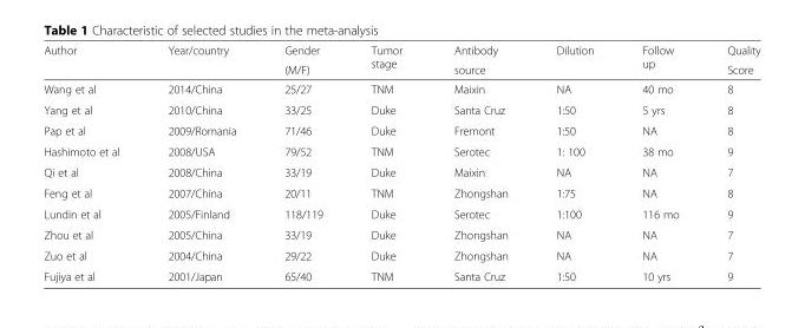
<table><thead><tr><td rowspan="2">Author</td><td rowspan="2">Year/country</td><td rowspan="2">Gender (M/F)</td><td rowspan="2">Tumor stage</td><td rowspan="2">Antibody source</td><td rowspan="2">Dilution</td><td rowspan="2">Follow up</td><td rowspan="2">Quality Score</td></tr><tr></tr></thead><tbody><tr><td>Wang et al</td><td>2014/China</td><td>25/27</td><td>TNM</td><td>Maixin</td><td>NA</td><td>40 mo</td><td>8</td></tr><tr><td>Yang et al</td><td>2010/China</td><td>33/25</td><td>Duke</td><td>Santa Cruz</td><td>1:50</td><td>5 yrs</td><td>8</td></tr><tr><td>Pap et al</td><td>2009/Romania</td><td>71/46</td><td>Duke</td><td>Fremont</td><td>1:50</td><td>NA</td><td>8</td></tr><tr><td>Hashimoto et al</td><td>2008/USA</td><td>79/52</td><td>TNM</td><td>Serotec</td><td>1: 100</td><td>38 mo</td><td>9</td></tr><tr><td>Qi et al</td><td>2008/China</td><td>33/19</td><td>Duke</td><td>Maixin</td><td>NA</td><td>NA</td><td>7</td></tr><tr><td>Feng et al</td><td>2007/China</td><td>20/11</td><td>TNM</td><td>Zhongshan</td><td>1:75</td><td>NA</td><td>8</td></tr><tr><td>Lundin et al</td><td>2005/Finland</td><td>118/119</td><td>Duke</td><td>Serotec</td><td>1:100</td><td>116 mo</td><td>9</td></tr><tr><td>Zhou et al</td><td>2005/China</td><td>33/19</td><td>Duke</td><td>Zhongshan</td><td>NA</td><td>NA</td><td>7</td></tr><tr><td>Zuo et al</td><td>2004/China</td><td>29/22</td><td>Duke</td><td>Zhongshan</td><td>NA</td><td>NA</td><td>7</td></tr><tr><td>Fujiya et al</td><td>2001/Japan</td><td>65/40</td><td>TNM</td><td>Santa Cruz</td><td>1:50</td><td>10 yrs</td><td>9</td></tr></tbody></table>